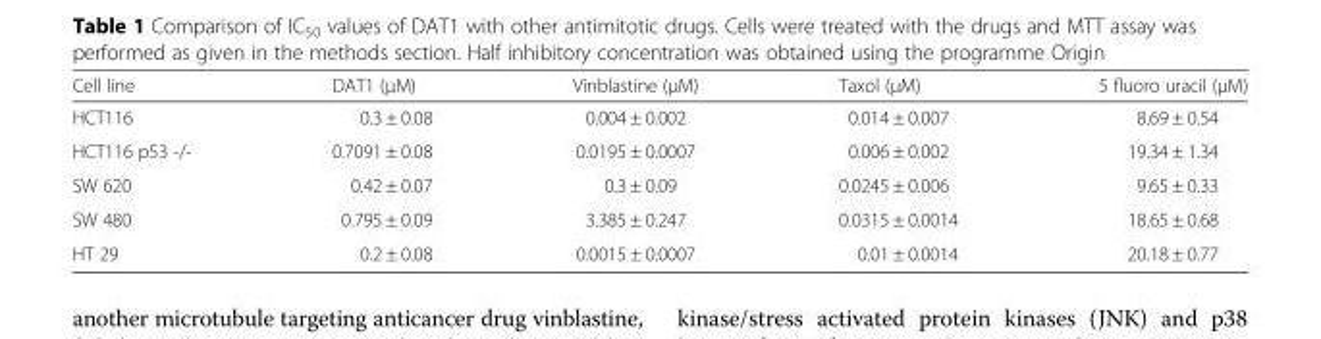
<table><thead><tr><td>Cell line</td><td>DAT1 (μM)</td><td>Vinblastine (μM)</td><td>Taxol (μM)</td><td>5 fluoro uracil (μM)</td></tr></thead><tbody><tr><td>HCT116</td><td>0.3 ± 0.08</td><td>0.004 ± 0.002</td><td>0.014 ± 0.007</td><td>8.69 ± 0.54</td></tr><tr><td>HCT116 p53 -/-</td><td>0.7091 ± 0.08</td><td>0.0195 ± 0.0007</td><td>0.006 ± 0.002</td><td>19.34 ± 1.34</td></tr><tr><td>SW 620</td><td>0.42 ± 0.07</td><td>0.3 ± 0.09</td><td>0.0245 ± 0.006</td><td>9.65 ± 0.33</td></tr><tr><td>SW 480</td><td>0.795 ± 0.09</td><td>3.385 ± 0.247</td><td>0.0315 ± 0.0014</td><td>18.65 ± 0.68</td></tr><tr><td>HT 29</td><td>0.2 ± 0.08</td><td>0.0015 ± 0.0007</td><td>0.01 ± 0.0014</td><td>20.18 ± 0.77</td></tr></tbody></table>